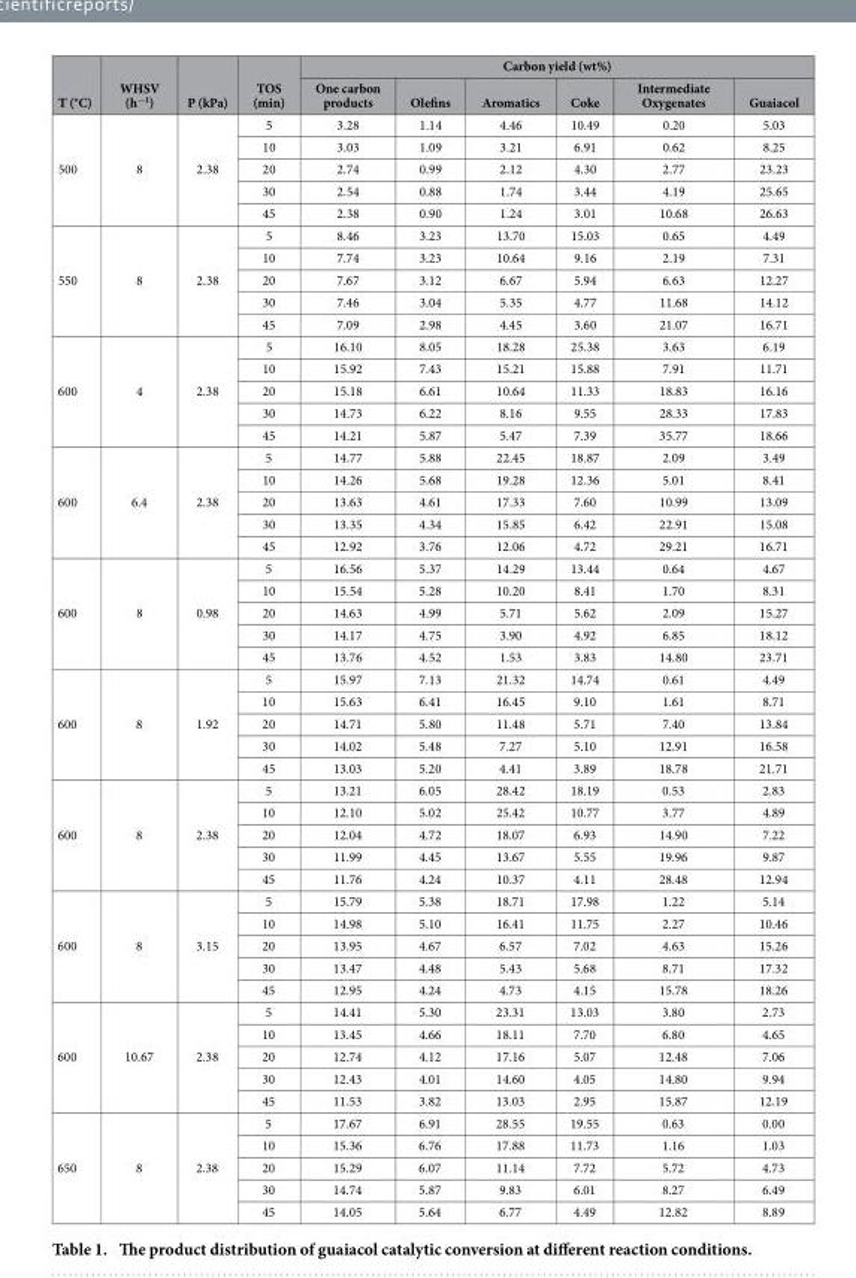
<table><thead><tr><td rowspan="2">T (°C)</td><td rowspan="2">WHSV (h<sup>−1</sup>)</td><td rowspan="2">P (kPa)</td><td rowspan="2">TOS (min)</td><td colspan="6">Carbon yield (wt%)</td></tr><tr><td>One carbon products</td><td>Olefins</td><td>Aromatics</td><td>Coke</td><td>Intermediate Oxygenates</td><td>Guaiacol</td></tr></thead><tbody><tr><td rowspan="5">500</td><td rowspan="5">8</td><td rowspan="5">2.38</td><td>5</td><td>3.28</td><td>1.14</td><td>4.46</td><td>10.49</td><td>0.20</td><td>5.03</td></tr><tr><td>10</td><td>3.03</td><td>1.09</td><td>3.21</td><td>6.91</td><td>0.62</td><td>8.25</td></tr><tr><td>20</td><td>2.74</td><td>0.99</td><td>2.12</td><td>4.30</td><td>2.77</td><td>23.23</td></tr><tr><td>30</td><td>2.54</td><td>0.88</td><td>1.74</td><td>3.44</td><td>4.19</td><td>25.65</td></tr><tr><td>45</td><td>2.38</td><td>0.90</td><td>1.24</td><td>3.01</td><td>10.68</td><td>26.63</td></tr><tr><td rowspan="5">550</td><td rowspan="5">8</td><td rowspan="5">2.38</td><td>5</td><td>8.46</td><td>3.23</td><td>13.70</td><td>15.03</td><td>0.65</td><td>4.49</td></tr><tr><td>10</td><td>7.74</td><td>3.23</td><td>10.64</td><td>9.16</td><td>2.19</td><td>7.31</td></tr><tr><td>20</td><td>7.67</td><td>3.12</td><td>6.67</td><td>5.94</td><td>6.63</td><td>12.27</td></tr><tr><td>30</td><td>7.46</td><td>3.04</td><td>5.35</td><td>4.77</td><td>11.68</td><td>14.12</td></tr><tr><td>45</td><td>7.09</td><td>2.98</td><td>4.45</td><td>3.60</td><td>21.07</td><td>16.71</td></tr><tr><td rowspan="5">600</td><td rowspan="5">4</td><td rowspan="5">2.38</td><td>5</td><td>16.10</td><td>8.05</td><td>18.28</td><td>25.38</td><td>3.63</td><td>6.19</td></tr><tr><td>10</td><td>15.92</td><td>7.43</td><td>15.21</td><td>15.88</td><td>7.91</td><td>11.71</td></tr><tr><td>20</td><td>15.18</td><td>6.61</td><td>10.64</td><td>11.33</td><td>18.83</td><td>16.16</td></tr><tr><td>30</td><td>14.73</td><td>6.22</td><td>8.16</td><td>9.55</td><td>28.33</td><td>17.83</td></tr><tr><td>45</td><td>14.21</td><td>5.87</td><td>5.47</td><td>7.39</td><td>35.77</td><td>18.66</td></tr><tr><td rowspan="5">600</td><td rowspan="5">6.4</td><td rowspan="5">2.38</td><td>5</td><td>14.77</td><td>5.88</td><td>22.45</td><td>18.87</td><td>2.09</td><td>3.49</td></tr><tr><td>10</td><td>14.26</td><td>5.68</td><td>19.28</td><td>12.36</td><td>5.01</td><td>8.41</td></tr><tr><td>20</td><td>13.63</td><td>4.61</td><td>17.33</td><td>7.60</td><td>10.99</td><td>13.09</td></tr><tr><td>30</td><td>13.35</td><td>4.34</td><td>15.85</td><td>6.42</td><td>22.91</td><td>15.08</td></tr><tr><td>45</td><td>12.92</td><td>3.76</td><td>12.06</td><td>4.72</td><td>29.21</td><td>16.71</td></tr><tr><td rowspan="5">600</td><td rowspan="5">8</td><td rowspan="5">0.98</td><td>5</td><td>16.56</td><td>5.37</td><td>14.29</td><td>13.44</td><td>0.64</td><td>4.67</td></tr><tr><td>10</td><td>15.54</td><td>5.28</td><td>10.20</td><td>8.41</td><td>1.70</td><td>8.31</td></tr><tr><td>20</td><td>14.63</td><td>4.99</td><td>5.71</td><td>5.62</td><td>2.09</td><td>15.27</td></tr><tr><td>30</td><td>14.17</td><td>4.75</td><td>3.90</td><td>4.92</td><td>6.85</td><td>18.12</td></tr><tr><td>45</td><td>13.76</td><td>4.52</td><td>1.53</td><td>3.83</td><td>14.80</td><td>23.71</td></tr><tr><td rowspan="5">600</td><td rowspan="5">8</td><td rowspan="5">1.92</td><td>5</td><td>15.97</td><td>7.13</td><td>21.32</td><td>14.74</td><td>0.61</td><td>4.49</td></tr><tr><td>10</td><td>15.63</td><td>6.41</td><td>16.45</td><td>9.10</td><td>1.61</td><td>8.71</td></tr><tr><td>20</td><td>14.71</td><td>5.80</td><td>11.48</td><td>5.71</td><td>7.40</td><td>13.84</td></tr><tr><td>30</td><td>14.02</td><td>5.48</td><td>7.27</td><td>5.10</td><td>12.91</td><td>16.58</td></tr><tr><td>45</td><td>13.03</td><td>5.20</td><td>4.41</td><td>3.89</td><td>18.78</td><td>21.71</td></tr><tr><td rowspan="5">600</td><td rowspan="5">8</td><td rowspan="5">2.38</td><td>5</td><td>13.21</td><td>6.05</td><td>28.42</td><td>18.19</td><td>0.53</td><td>2.83</td></tr><tr><td>10</td><td>12.10</td><td>5.02</td><td>25.42</td><td>10.77</td><td>3.77</td><td>4.89</td></tr><tr><td>20</td><td>12.04</td><td>4.72</td><td>18.07</td><td>6.93</td><td>14.90</td><td>7.22</td></tr><tr><td>30</td><td>11.99</td><td>4.45</td><td>13.67</td><td>5.55</td><td>19.96</td><td>9.87</td></tr><tr><td>45</td><td>11.76</td><td>4.24</td><td>10.37</td><td>4.11</td><td>28.48</td><td>12.94</td></tr><tr><td rowspan="5">600</td><td rowspan="5">8</td><td rowspan="5">3.15</td><td>5</td><td>15.79</td><td>5.38</td><td>18.71</td><td>17.98</td><td>1.22</td><td>5.14</td></tr><tr><td>10</td><td>14.98</td><td>5.10</td><td>16.41</td><td>11.75</td><td>2.27</td><td>10.46</td></tr><tr><td>20</td><td>13.95</td><td>4.67</td><td>6.57</td><td>7.02</td><td>4.63</td><td>15.26</td></tr><tr><td>30</td><td>13.47</td><td>4.48</td><td>5.43</td><td>5.68</td><td>8.71</td><td>17.32</td></tr><tr><td>45</td><td>12.95</td><td>4.24</td><td>4.73</td><td>4.15</td><td>15.78</td><td>18.26</td></tr><tr><td rowspan="5">600</td><td rowspan="5">10.67</td><td rowspan="5">2.38</td><td>5</td><td>14.41</td><td>5.30</td><td>23.31</td><td>13.03</td><td>3.80</td><td>2.73</td></tr><tr><td>10</td><td>13.45</td><td>4.66</td><td>18.11</td><td>7.70</td><td>6.80</td><td>4.65</td></tr><tr><td>20</td><td>12.74</td><td>4.12</td><td>17.16</td><td>5.07</td><td>12.48</td><td>7.06</td></tr><tr><td>30</td><td>12.43</td><td>4.01</td><td>14.60</td><td>4.05</td><td>14.80</td><td>9.94</td></tr><tr><td>45</td><td>11.53</td><td>3.82</td><td>13.03</td><td>2.95</td><td>15.87</td><td>12.19</td></tr><tr><td rowspan="5">650</td><td rowspan="5">8</td><td rowspan="5">2.38</td><td>5</td><td>17.67</td><td>6.91</td><td>28.55</td><td>19.55</td><td>0.63</td><td>0.00</td></tr><tr><td>10</td><td>15.36</td><td>6.76</td><td>17.88</td><td>11.73</td><td>1.16</td><td>1.03</td></tr><tr><td>20</td><td>15.29</td><td>6.07</td><td>11.14</td><td>7.72</td><td>5.72</td><td>4.73</td></tr><tr><td>30</td><td>14.74</td><td>5.87</td><td>9.83</td><td>6.01</td><td>8.27</td><td>6.49</td></tr><tr><td>45</td><td>14.05</td><td>5.64</td><td>6.77</td><td>4.49</td><td>12.82</td><td>8.89</td></tr></tbody></table>